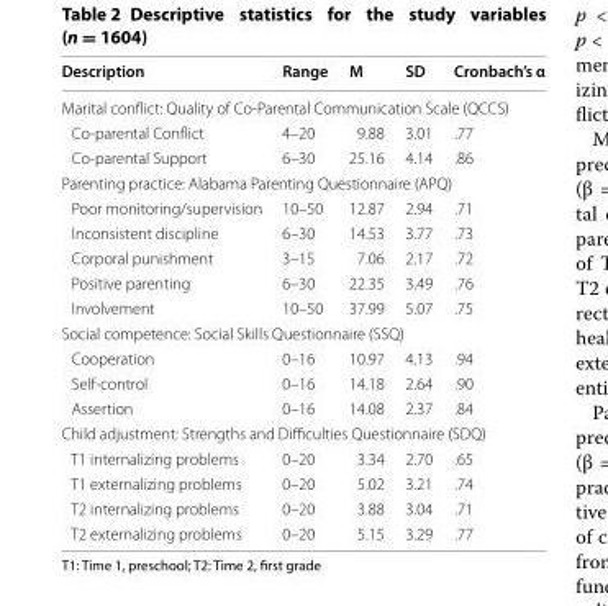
<table><thead><tr><td>Description</td><td>Range</td><td>M</td><td>SD</td><td>Cronbach’s α</td></tr></thead><tbody><tr><td colspan="5">Marital conflict: Quality of Co-Parental Communication Scale (QCCS)</td></tr><tr><td>Co-parental Conflict</td><td>4–20</td><td>9.88</td><td>3.01</td><td>.77</td></tr><tr><td>Co-parental Support</td><td>6–30</td><td>25.16</td><td>4.14</td><td>.86</td></tr><tr><td colspan="5">Parenting practice: Alabama Parenting Questionnaire (APQ)</td></tr><tr><td>Poor monitoring/supervision</td><td>10–50</td><td>12.87</td><td>2.94</td><td>.71</td></tr><tr><td>Inconsistent discipline</td><td>6–30</td><td>14.53</td><td>3.77</td><td>.73</td></tr><tr><td>Corporal punishment</td><td>3–15</td><td>7.06</td><td>2.17</td><td>.72</td></tr><tr><td>Positive parenting</td><td>6–30</td><td>22.35</td><td>3.49</td><td>.76</td></tr><tr><td>Involvement</td><td>10–50</td><td>37.99</td><td>5.07</td><td>.75</td></tr><tr><td colspan="5">Social competence: Social Skills Questionnaire (SSQ)</td></tr><tr><td>Cooperation</td><td>0–16</td><td>10.97</td><td>4.13</td><td>.94</td></tr><tr><td>Self-control</td><td>0–16</td><td>14.18</td><td>2.64</td><td>.90</td></tr><tr><td>Assertion</td><td>0–16</td><td>14.08</td><td>2.37</td><td>.84</td></tr><tr><td colspan="5">Child adjustment: Strengths and Difficulties Questionnaire (SDQ)</td></tr><tr><td>T1 internalizing problems</td><td>0–20</td><td>3.34</td><td>2.70</td><td>.65</td></tr><tr><td>T1 externalizing problems</td><td>0–20</td><td>5.02</td><td>3.21</td><td>.74</td></tr><tr><td>T2 internalizing problems</td><td>0–20</td><td>3.88</td><td>3.04</td><td>.71</td></tr><tr><td>T2 externalizing problems</td><td>0–20</td><td>5.15</td><td>3.29</td><td>.77</td></tr></tbody></table>